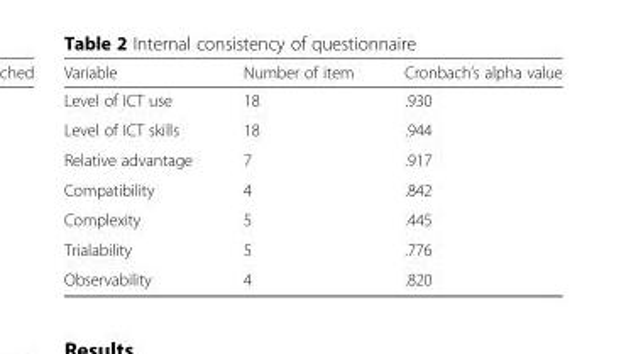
<table><thead><tr><td>Variable</td><td>Number of item</td><td>Cronbach’s alpha value</td></tr></thead><tbody><tr><td>Level of ICT use</td><td>18</td><td>.930</td></tr><tr><td>Level of ICT skills</td><td>18</td><td>.944</td></tr><tr><td>Relative advantage</td><td>7</td><td>.917</td></tr><tr><td>Compatibility</td><td>4</td><td>.842</td></tr><tr><td>Complexity</td><td>5</td><td>.445</td></tr><tr><td>Trialability</td><td>5</td><td>.776</td></tr><tr><td>Observability</td><td>4</td><td>.820</td></tr></tbody></table>